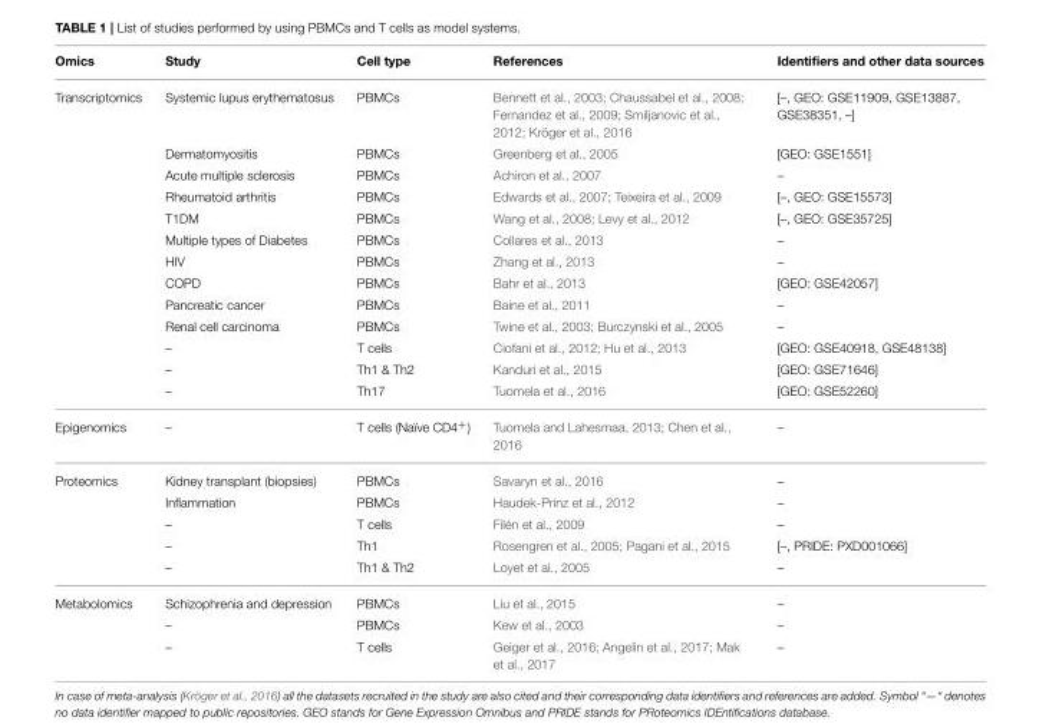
<table><thead><tr><td>Omics</td><td>Study</td><td>Cell type</td><td>References</td><td>Identifiers and other data sources</td></tr></thead><tbody><tr><td rowspan="13">Transcriptomics</td><td>Systemic lupus erythematosus</td><td>PBMCs</td><td>Bennett et al., 2003; Chaussabel et al., 2008; Fernandez et al., 2009; Smiljanovic et al., 2012; Kröger et al., 2016</td><td>[–, GEO: GSE11909, GSE13887, GSE38351, –]</td></tr><tr><td>Dermatomyositis</td><td>PBMCs</td><td>Greenberg et al., 2005</td><td>[GEO: GSE1551]</td></tr><tr><td>Acute multiple sclerosis</td><td>PBMCs</td><td>Achiron et al., 2007</td><td>–</td></tr><tr><td>Rheumatoid arthritis</td><td>PBMCs</td><td>Edwards et al., 2007; Teixeira et al., 2009</td><td>[–, GEO: GSE15573]</td></tr><tr><td>T1DM</td><td>PBMCs</td><td>Wang et al., 2008; Levy et al., 2012</td><td>[–, GEO: GSE35725]</td></tr><tr><td>Multiple types of Diabetes</td><td>PBMCs</td><td>Collares et al., 2013</td><td>–</td></tr><tr><td>HIV</td><td>PBMCs</td><td>Zhang et al., 2013</td><td>–</td></tr><tr><td>COPD</td><td>PBMCs</td><td>Bahr et al., 2013</td><td>[GEO: GSE42057]</td></tr><tr><td>Pancreatic cancer</td><td>PBMCs</td><td>Baine et al., 2011</td><td>–</td></tr><tr><td>Renal cell carcinoma</td><td>PBMCs</td><td>Twine et al., 2003; Burczynski et al., 2005</td><td>–</td></tr><tr><td>–</td><td>T cells</td><td>Ciofani et al., 2012; Hu et al., 2013</td><td>[GEO: GSE40918, GSE48138]</td></tr><tr><td>–</td><td>Th1 &amp; Th2</td><td>Kanduri et al., 2015</td><td>[GEO: GSE71646]</td></tr><tr><td>–</td><td>Th17</td><td>Tuomela et al., 2016</td><td>[GEO: GSE52260]</td></tr><tr><td>Epigenomics</td><td>–</td><td>T cells (Naïve CD4<sup>+</sup>)</td><td>Tuomela and Lahesmaa, 2013; Chen et al., 2016</td><td>–</td></tr><tr><td rowspan="5">Proteomics</td><td>Kidney transplant (biopsies)</td><td>PBMCs</td><td>Savaryn et al., 2016</td><td>–</td></tr><tr><td>Inflammation</td><td>PBMCs</td><td>Haudek-Prinz et al., 2012</td><td>–</td></tr><tr><td>–</td><td>T cells</td><td>Filén et al., 2009</td><td>–</td></tr><tr><td>–</td><td>Th1</td><td>Rosengren et al., 2005; Pagani et al., 2015</td><td>[–, PRIDE: PXD001066]</td></tr><tr><td>–</td><td>Th1 &amp; Th2</td><td>Loyet et al., 2005</td><td>–</td></tr><tr><td rowspan="3">Metabolomics</td><td>Schizophrenia and depression</td><td>PBMCs</td><td>Liu et al., 2015</td><td>–</td></tr><tr><td>–</td><td>PBMCs</td><td>Kew et al., 2003</td><td>–</td></tr><tr><td>–</td><td>T cells</td><td>Geiger et al., 2016; Angelin et al., 2017; Mak et al., 2017</td><td>–</td></tr></tbody></table>